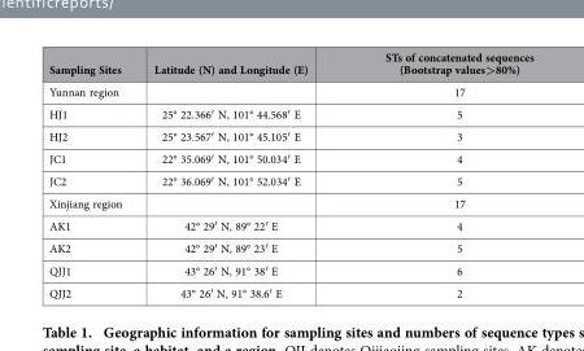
<table><thead><tr><td>Sampling Sites</td><td>Latitude (N) and Longitude (E)</td><td>STs of concatenated sequences (Bootstrap values&gt;80%)</td></tr></thead><tbody><tr><td>Yunnan region</td><td></td><td>17</td></tr><tr><td>HJ1</td><td>25° 22.366′ N, 101° 44.568′ E</td><td>5</td></tr><tr><td>HJ2</td><td>25° 23.567′ N, 101° 45.105′ E</td><td>3</td></tr><tr><td>JC1</td><td>22° 35.069′ N, 101° 50.034′ E</td><td>4</td></tr><tr><td>JC2</td><td>22° 36.069′ N, 101° 52.034′ E</td><td>5</td></tr><tr><td>Xinjiang region</td><td></td><td>17</td></tr><tr><td>AK1</td><td>42° 29′ N, 89° 22′ E</td><td>4</td></tr><tr><td>AK2</td><td>42° 29′ N, 89° 23′ E</td><td>5</td></tr><tr><td>QJJ1</td><td>43° 26′ N, 91° 38′ E</td><td>6</td></tr><tr><td>QJJ2</td><td>43° 26′ N, 91° 38.6′ E</td><td>2</td></tr></tbody></table>